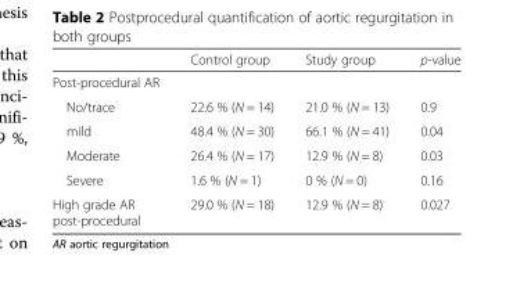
<table><thead><tr><td></td><td>Control group</td><td>Study group</td><td>p-value</td></tr></thead><tbody><tr><td colspan="4">Post-procedural AR</td></tr><tr><td>No/trace</td><td>22.6 % (N = 14)</td><td>21.0 % (N = 13)</td><td>0.9</td></tr><tr><td>mild</td><td>48.4 % (N = 30)</td><td>66.1 % (N = 41)</td><td>0.04</td></tr><tr><td>Moderate</td><td>26.4 % (N = 17)</td><td>12.9 % (N = 8)</td><td>0.03</td></tr><tr><td>Severe</td><td>1.6 % (N = 1)</td><td>0 % (N = 0)</td><td>0.16</td></tr><tr><td>High grade AR post-procedural</td><td>29.0 % (N = 18)</td><td>12.9 % (N = 8)</td><td>0.027</td></tr></tbody></table>